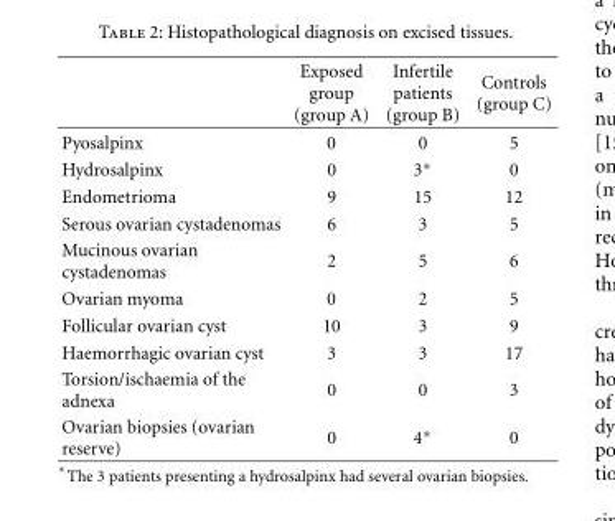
<table><thead><tr><td></td><td>Exposed group (group A)</td><td>Infertile patients (group B)</td><td>Controls (group C)</td></tr></thead><tbody><tr><td>Pyosalpinx</td><td>0</td><td>0</td><td>5</td></tr><tr><td>Hydrosalpinx</td><td>0</td><td>3∗</td><td>0</td></tr><tr><td>Endometrioma</td><td>9</td><td>15</td><td>12</td></tr><tr><td>Serous ovarian cystadenomas</td><td>6</td><td>3</td><td>5</td></tr><tr><td>Mucinous ovarian cystadenomas</td><td>2</td><td>5</td><td>6</td></tr><tr><td>Ovarian myoma</td><td>0</td><td>2</td><td>5</td></tr><tr><td>Follicular ovarian cyst</td><td>10</td><td>3</td><td>9</td></tr><tr><td>Haemorrhagic ovarian cyst</td><td>3</td><td>3</td><td>17</td></tr><tr><td>Torsion/ischaemia of the adnexa</td><td>0</td><td>0</td><td>3</td></tr><tr><td>Ovarian biopsies (ovarian reserve)</td><td>0</td><td>4∗</td><td>0</td></tr></tbody></table>